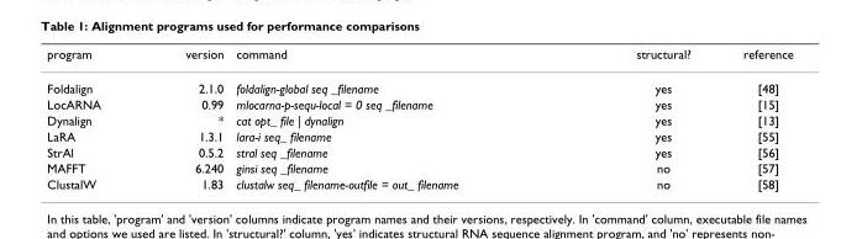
<table><thead><tr><td>program</td><td>version</td><td>command</td><td>structural?</td><td>reference</td></tr></thead><tbody><tr><td>Foldalign</td><td>2.1.0</td><td>foldalign-global seq _filename</td><td>yes</td><td>[48]</td></tr><tr><td>LocARNA</td><td>0.99</td><td>mlocarna-p-sequ-local = 0 seq _filename</td><td>yes</td><td>[15]</td></tr><tr><td>Dynalign</td><td>*</td><td>cat opt_ file | dynalign</td><td>yes</td><td>[13]</td></tr><tr><td>LaRA</td><td>1.3.1</td><td>lara-i seq_ filename</td><td>yes</td><td>[55]</td></tr><tr><td>StrAl</td><td>0.5.2</td><td>stral seq _filename</td><td>yes</td><td>[56]</td></tr><tr><td>MAFFT</td><td>6.240</td><td>ginsi seq _filename</td><td>no</td><td>[57]</td></tr><tr><td>ClustalW</td><td>1.83</td><td>clustalw seq_ filename-outfile = out_ filename</td><td>no</td><td>[58]</td></tr></tbody></table>